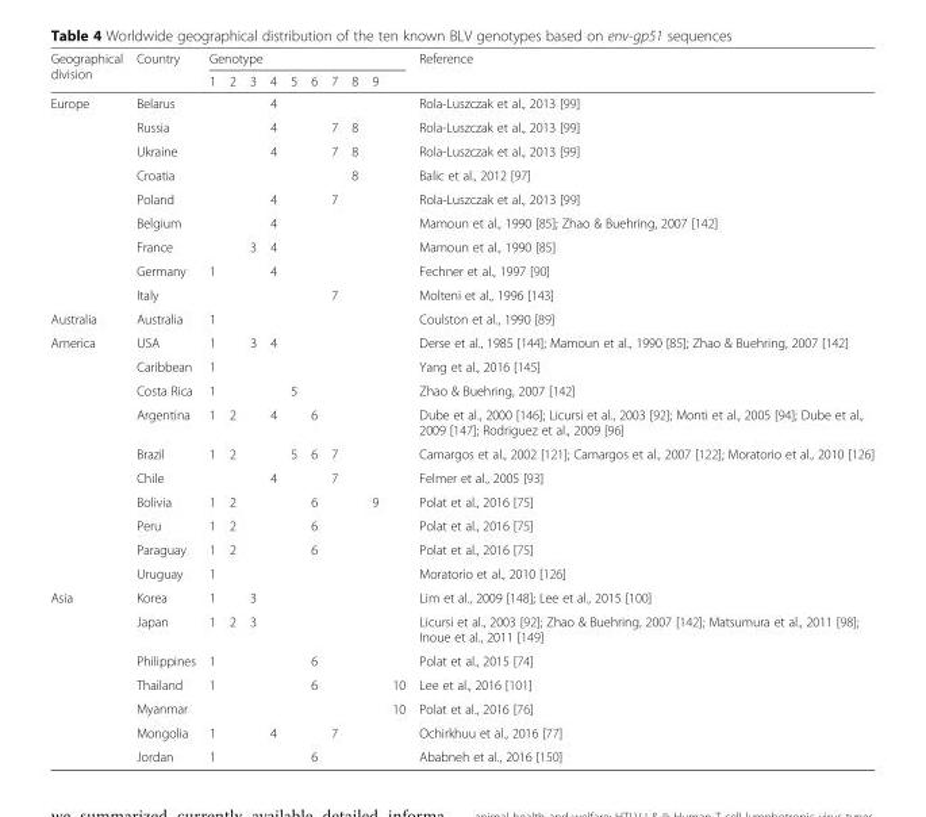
<table><thead><tr><td rowspan="2">Geographical division</td><td rowspan="2">Country</td><td colspan="10">Genotype</td><td rowspan="2">Reference</td></tr><tr><td>1</td><td>2</td><td>3</td><td>4</td><td>5</td><td>6</td><td>7</td><td>8</td><td>9</td><td></td></tr></thead><tbody><tr><td rowspan="9">Europe</td><td>Belarus</td><td></td><td></td><td></td><td>4</td><td></td><td></td><td></td><td></td><td></td><td></td><td>Rola-Luszczak et al., 2013 [99]</td></tr><tr><td>Russia</td><td></td><td></td><td></td><td>4</td><td></td><td></td><td>7</td><td>8</td><td></td><td></td><td>Rola-Luszczak et al., 2013 [99]</td></tr><tr><td>Ukraine</td><td></td><td></td><td></td><td>4</td><td></td><td></td><td>7</td><td>8</td><td></td><td></td><td>Rola-Luszczak et al., 2013 [99]</td></tr><tr><td>Croatia</td><td></td><td></td><td></td><td></td><td></td><td></td><td></td><td>8</td><td></td><td></td><td>Balic et al., 2012 [97]</td></tr><tr><td>Poland</td><td></td><td></td><td></td><td>4</td><td></td><td></td><td>7</td><td></td><td></td><td></td><td>Rola-Luszczak et al., 2013 [99]</td></tr><tr><td>Belgium</td><td></td><td></td><td></td><td>4</td><td></td><td></td><td></td><td></td><td></td><td></td><td>Mamoun et al., 1990 [85]; Zhao &amp; Buehring, 2007 [142]</td></tr><tr><td>France</td><td></td><td></td><td>3</td><td>4</td><td></td><td></td><td></td><td></td><td></td><td></td><td>Mamoun et al., 1990 [85]</td></tr><tr><td>Germany</td><td>1</td><td></td><td></td><td>4</td><td></td><td></td><td></td><td></td><td></td><td></td><td>Fechner et al., 1997 [90]</td></tr><tr><td>Italy</td><td></td><td></td><td></td><td></td><td></td><td></td><td>7</td><td></td><td></td><td></td><td>Molteni et al., 1996 [143]</td></tr><tr><td>Australia</td><td>Australia</td><td>1</td><td></td><td></td><td></td><td></td><td></td><td></td><td></td><td></td><td></td><td>Coulston et al., 1990 [89]</td></tr><tr><td rowspan="10">America</td><td>USA</td><td>1</td><td></td><td>3</td><td>4</td><td></td><td></td><td></td><td></td><td></td><td></td><td>Derse et al., 1985 [144]; Mamoun et al., 1990 [85]; Zhao &amp; Buehring, 2007 [142]</td></tr><tr><td>Caribbean</td><td>1</td><td></td><td></td><td></td><td></td><td></td><td></td><td></td><td></td><td></td><td>Yang et al., 2016 [145]</td></tr><tr><td>Costa Rica</td><td>1</td><td></td><td></td><td></td><td>5</td><td></td><td></td><td></td><td></td><td></td><td>Zhao &amp; Buehring, 2007 [142]</td></tr><tr><td>Argentina</td><td>1</td><td>2</td><td></td><td>4</td><td></td><td>6</td><td></td><td></td><td></td><td></td><td>Dube et al., 2000 [146]; Licursi et al., 2003 [92]; Monti et al., 2005 [94]; Dube et al., 2009 [147]; Rodriguez et al., 2009 [96]</td></tr><tr><td>Brazil</td><td>1</td><td>2</td><td></td><td></td><td>5</td><td>6</td><td>7</td><td></td><td></td><td></td><td>Camargos et al., 2002 [121]; Camargos et al., 2007 [122]; Moratorio et al., 2010 [126]</td></tr><tr><td>Chile</td><td></td><td></td><td></td><td>4</td><td></td><td></td><td>7</td><td></td><td></td><td></td><td>Felmer et al., 2005 [93]</td></tr><tr><td>Bolivia</td><td>1</td><td>2</td><td></td><td></td><td></td><td>6</td><td></td><td></td><td>9</td><td></td><td>Polat et al., 2016 [75]</td></tr><tr><td>Peru</td><td>1</td><td>2</td><td></td><td></td><td></td><td>6</td><td></td><td></td><td></td><td></td><td>Polat et al., 2016 [75]</td></tr><tr><td>Paraguay</td><td>1</td><td>2</td><td></td><td></td><td></td><td>6</td><td></td><td></td><td></td><td></td><td>Polat et al., 2016 [75]</td></tr><tr><td>Uruguay</td><td>1</td><td></td><td></td><td></td><td></td><td></td><td></td><td></td><td></td><td></td><td>Moratorio et al., 2010 [126]</td></tr><tr><td rowspan="7">Asia</td><td>Korea</td><td>1</td><td></td><td>3</td><td></td><td></td><td></td><td></td><td></td><td></td><td></td><td>Lim et al., 2009 [148]; Lee et al., 2015 [100]</td></tr><tr><td>Japan</td><td>1</td><td>2</td><td>3</td><td></td><td></td><td></td><td></td><td></td><td></td><td></td><td>Licursi et al., 2003 [92]; Zhao &amp; Buehring, 2007 [142]; Matsumura et al., 2011 [98]; Inoue et al., 2011 [149]</td></tr><tr><td>Philippines</td><td>1</td><td></td><td></td><td></td><td></td><td>6</td><td></td><td></td><td></td><td></td><td>Polat et al., 2015 [74]</td></tr><tr><td>Thailand</td><td>1</td><td></td><td></td><td></td><td></td><td>6</td><td></td><td></td><td></td><td>10</td><td>Lee et al., 2016 [101]</td></tr><tr><td>Myanmar</td><td></td><td></td><td></td><td></td><td></td><td></td><td></td><td></td><td></td><td>10</td><td>Polat et al., 2016 [76]</td></tr><tr><td>Mongolia</td><td>1</td><td></td><td></td><td>4</td><td></td><td></td><td>7</td><td></td><td></td><td></td><td>Ochirkhuu et al., 2016 [77]</td></tr><tr><td>Jordan</td><td>1</td><td></td><td></td><td></td><td></td><td>6</td><td></td><td></td><td></td><td></td><td>Ababneh et al., 2016 [150]</td></tr></tbody></table>